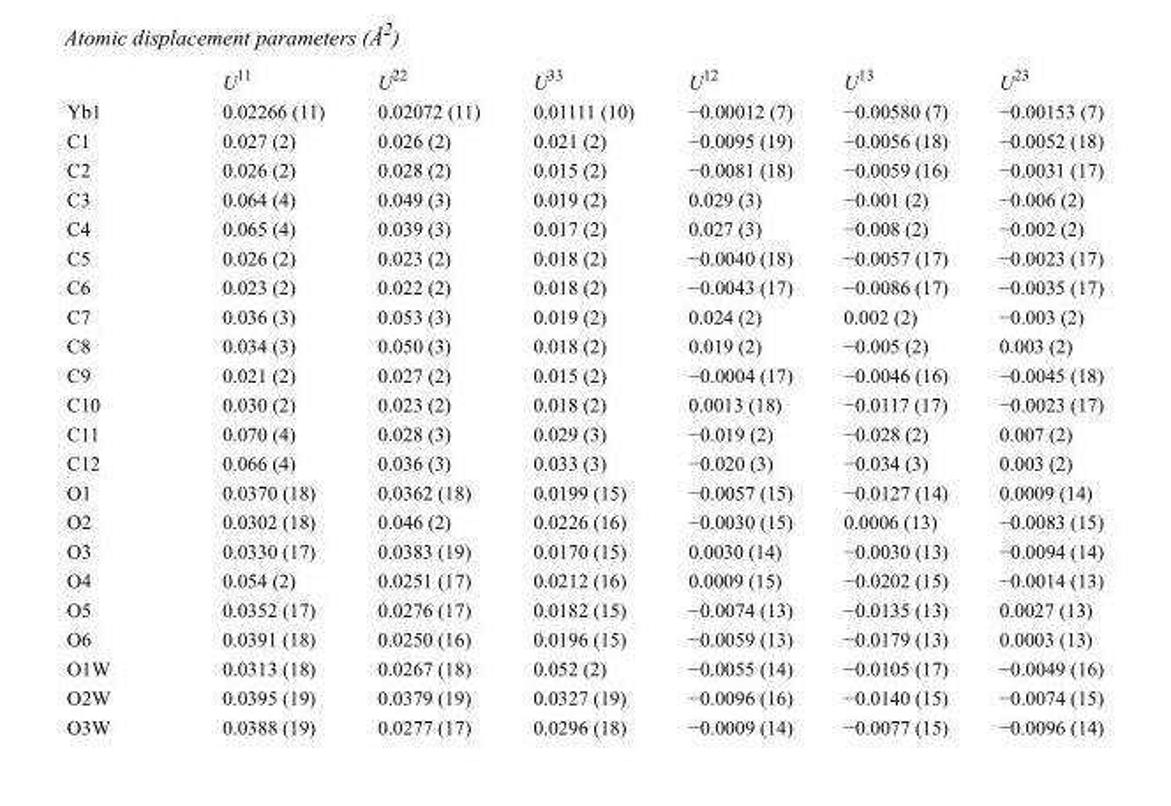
<table><thead><tr><td></td><td>U<sup>11</sup></td><td>U<sup>22</sup></td><td>U<sup>33</sup></td><td>U<sup>12</sup></td><td>U<sup>13</sup></td><td>U<sup>23</sup></td></tr></thead><tbody><tr><td>Yb1</td><td>0.02266 (11)</td><td>0.02072 (11)</td><td>0.01111 (10)</td><td>−0.00012 (7)</td><td>−0.00580 (7)</td><td>−0.00153 (7)</td></tr><tr><td>C1</td><td>0.027 (2)</td><td>0.026 (2)</td><td>0.021 (2)</td><td>−0.0095 (19)</td><td>−0.0056 (18)</td><td>−0.0052 (18)</td></tr><tr><td>C2</td><td>0.026 (2)</td><td>0.028 (2)</td><td>0.015 (2)</td><td>−0.0081 (18)</td><td>−0.0059 (16)</td><td>−0.0031 (17)</td></tr><tr><td>C3</td><td>0.064 (4)</td><td>0.049 (3)</td><td>0.019 (2)</td><td>0.029 (3)</td><td>−0.001 (2)</td><td>−0.006 (2)</td></tr><tr><td>C4</td><td>0.065 (4)</td><td>0.039 (3)</td><td>0.017 (2)</td><td>0.027 (3)</td><td>−0.008 (2)</td><td>−0.002 (2)</td></tr><tr><td>C5</td><td>0.026 (2)</td><td>0.023 (2)</td><td>0.018 (2)</td><td>−0.0040 (18)</td><td>−0.0057 (17)</td><td>−0.0023 (17)</td></tr><tr><td>C6</td><td>0.023 (2)</td><td>0.022 (2)</td><td>0.018 (2)</td><td>−0.0043 (17)</td><td>−0.0086 (17)</td><td>−0.0035 (17)</td></tr><tr><td>C7</td><td>0.036 (3)</td><td>0.053 (3)</td><td>0.019 (2)</td><td>0.024 (2)</td><td>0.002 (2)</td><td>−0.003 (2)</td></tr><tr><td>C8</td><td>0.034 (3)</td><td>0.050 (3)</td><td>0.018 (2)</td><td>0.019 (2)</td><td>−0.005 (2)</td><td>0.003 (2)</td></tr><tr><td>C9</td><td>0.021 (2)</td><td>0.027 (2)</td><td>0.015 (2)</td><td>−0.0004 (17)</td><td>−0.0046 (16)</td><td>−0.0045 (18)</td></tr><tr><td>C10</td><td>0.030 (2)</td><td>0.023 (2)</td><td>0.018 (2)</td><td>0.0013 (18)</td><td>−0.0117 (17)</td><td>−0.0023 (17)</td></tr><tr><td>C11</td><td>0.070 (4)</td><td>0.028 (3)</td><td>0.029 (3)</td><td>−0.019 (2)</td><td>−0.028 (2)</td><td>0.007 (2)</td></tr><tr><td>C12</td><td>0.066 (4)</td><td>0.036 (3)</td><td>0.033 (3)</td><td>−0.020 (3)</td><td>−0.034 (3)</td><td>0.003 (2)</td></tr><tr><td>O1</td><td>0.0370 (18)</td><td>0.0362 (18)</td><td>0.0199 (15)</td><td>−0.0057 (15)</td><td>−0.0127 (14)</td><td>0.0009 (14)</td></tr><tr><td>O2</td><td>0.0302 (18)</td><td>0.046 (2)</td><td>0.0226 (16)</td><td>−0.0030 (15)</td><td>0.0006 (13)</td><td>−0.0083 (15)</td></tr><tr><td>O3</td><td>0.0330 (17)</td><td>0.0383 (19)</td><td>0.0170 (15)</td><td>0.0030 (14)</td><td>−0.0030 (13)</td><td>−0.0094 (14)</td></tr><tr><td>O4</td><td>0.054 (2)</td><td>0.0251 (17)</td><td>0.0212 (16)</td><td>0.0009 (15)</td><td>−0.0202 (15)</td><td>−0.0014 (13)</td></tr><tr><td>O5</td><td>0.0352 (17)</td><td>0.0276 (17)</td><td>0.0182 (15)</td><td>−0.0074 (13)</td><td>−0.0135 (13)</td><td>0.0027 (13)</td></tr><tr><td>O6</td><td>0.0391 (18)</td><td>0.0250 (16)</td><td>0.0196 (15)</td><td>−0.0059 (13)</td><td>−0.0179 (13)</td><td>0.0003 (13)</td></tr><tr><td>O1W</td><td>0.0313 (18)</td><td>0.0267 (18)</td><td>0.052 (2)</td><td>−0.0055 (14)</td><td>−0.0105 (17)</td><td>−0.0049 (16)</td></tr><tr><td>O2W</td><td>0.0395 (19)</td><td>0.0379 (19)</td><td>0.0327 (19)</td><td>−0.0096 (16)</td><td>−0.0140 (15)</td><td>−0.0074 (15)</td></tr><tr><td>O3W</td><td>0.0388 (19)</td><td>0.0277 (17)</td><td>0.0296 (18)</td><td>−0.0009 (14)</td><td>−0.0077 (15)</td><td>−0.0096 (14)</td></tr></tbody></table>